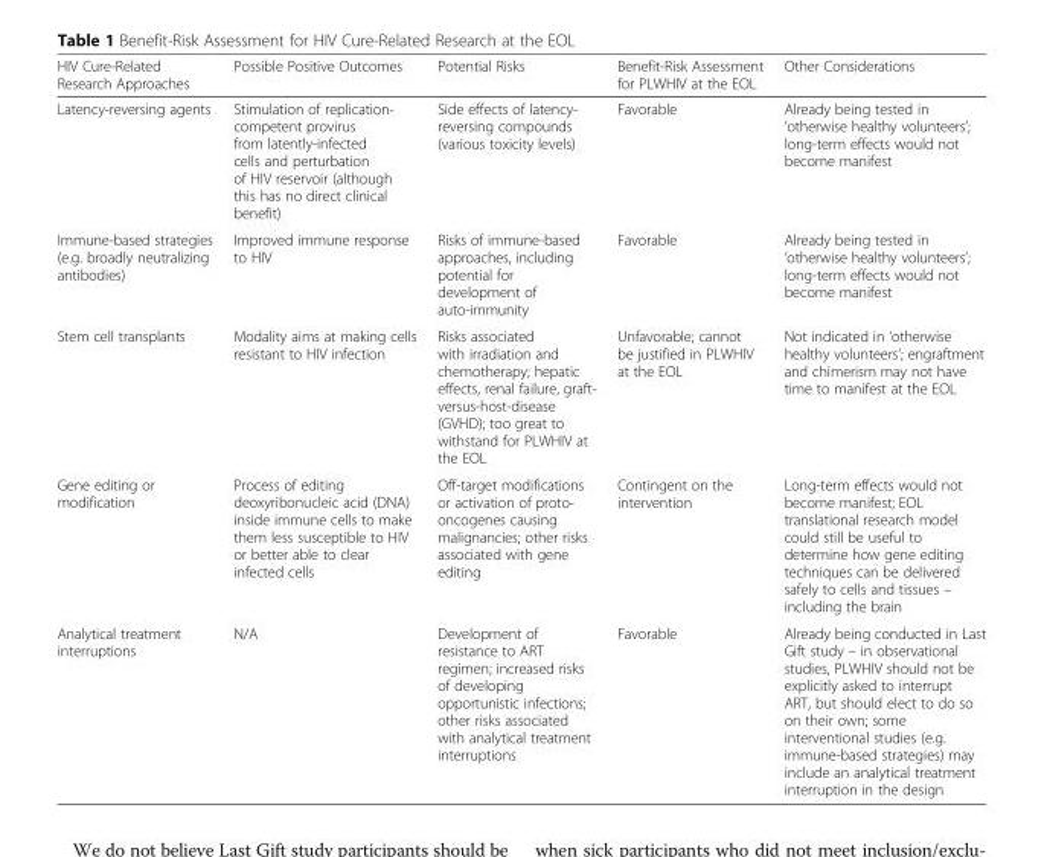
<table><thead><tr><td>HIV Cure-Related Research Approaches</td><td>Possible Positive Outcomes</td><td>Potential Risks</td><td>Benefit-Risk Assessment for PLWHIV at the EOL</td><td>Other Considerations</td></tr></thead><tbody><tr><td>Latency-reversing agents</td><td>Stimulation of replication- competent provirus from latently-infected cells and perturbation of HIV reservoir (although this has no direct clinical benefit)</td><td>Side effects of latency- reversing compounds (various toxicity levels)</td><td>Favorable</td><td>Already being tested in ‘otherwise healthy volunteers’; long-term effects would not become manifest</td></tr><tr><td>Immune-based strategies (e.g. broadly neutralizing antibodies)</td><td>Improved immune response to HIV</td><td>Risks of immune-based approaches, including potential for development of auto-immunity</td><td>Favorable</td><td>Already being tested in ‘otherwise healthy volunteers’; long-term effects would not become manifest</td></tr><tr><td>Stem cell transplants</td><td>Modality aims at making cells resistant to HIV infection</td><td>Risks associated with irradiation and chemotherapy; hepatic effects, renal failure, graft- versus-host-disease (GVHD); too great to withstand for PLWHIV at the EOL</td><td>Unfavorable; cannot be justified in PLWHIV at the EOL</td><td>Not indicated in ‘otherwise healthy volunteers’; engraftment and chimerism may not have time to manifest at the EOL</td></tr><tr><td>Gene editing or modification</td><td>Process of editing deoxyribonucleic acid (DNA) inside immune cells to make them less susceptible to HIV or better able to clear infected cells</td><td>Off-target modifications or activation of proto- oncogenes causing malignancies; other risks associated with gene editing</td><td>Contingent on the intervention</td><td>Long-term effects would not become manifest; EOL translational research model could still be useful to determine how gene editing techniques can be delivered safely to cells and tissues – including the brain</td></tr><tr><td>Analytical treatment interruptions</td><td>N/A</td><td>Development of resistance to ART regimen; increased risks of developing opportunistic infections; other risks associated with analytical treatment interruptions</td><td>Favorable</td><td>Already being conducted in Last Gift study – in observational studies, PLWHIV should not be explicitly asked to interrupt ART, but should elect to do so on their own; some interventional studies (e.g. immune-based strategies) may include an analytical treatment interruption in the design</td></tr></tbody></table>